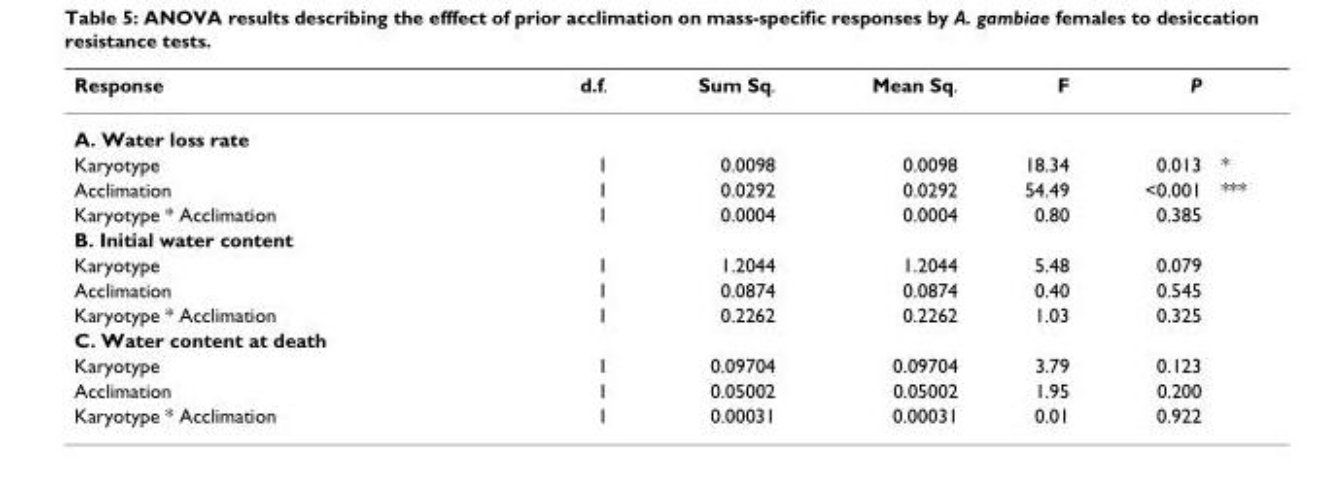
<table><thead><tr><td>Response</td><td>d.f.</td><td>Sum Sq.</td><td>Mean Sq.</td><td>F</td><td>P</td><td></td></tr></thead><tbody><tr><td colspan="7">A. Water loss rate</td></tr><tr><td>Karyotype</td><td>1</td><td>0.0098</td><td>0.0098</td><td>18.34</td><td>0.013</td><td>*</td></tr><tr><td>Acclimation</td><td>1</td><td>0.0292</td><td>0.0292</td><td>54.49</td><td>&lt;0.001</td><td>***</td></tr><tr><td>Karyotype * Acclimation</td><td>1</td><td>0.0004</td><td>0.0004</td><td>0.80</td><td>0.385</td><td></td></tr><tr><td colspan="7">B. Initial water content</td></tr><tr><td>Karyotype</td><td>1</td><td>1.2044</td><td>1.2044</td><td>5.48</td><td>0.079</td><td></td></tr><tr><td>Acclimation</td><td>1</td><td>0.0874</td><td>0.0874</td><td>0.40</td><td>0.545</td><td></td></tr><tr><td>Karyotype * Acclimation</td><td>1</td><td>0.2262</td><td>0.2262</td><td>1.03</td><td>0.325</td><td></td></tr><tr><td colspan="7">C. Water content at death</td></tr><tr><td>Karyotype</td><td>1</td><td>0.09704</td><td>0.09704</td><td>3.79</td><td>0.123</td><td></td></tr><tr><td>Acclimation</td><td>1</td><td>0.05002</td><td>0.05002</td><td>1.95</td><td>0.200</td><td></td></tr><tr><td>Karyotype * Acclimation</td><td>1</td><td>0.00031</td><td>0.00031</td><td>0.01</td><td>0.922</td><td></td></tr></tbody></table>